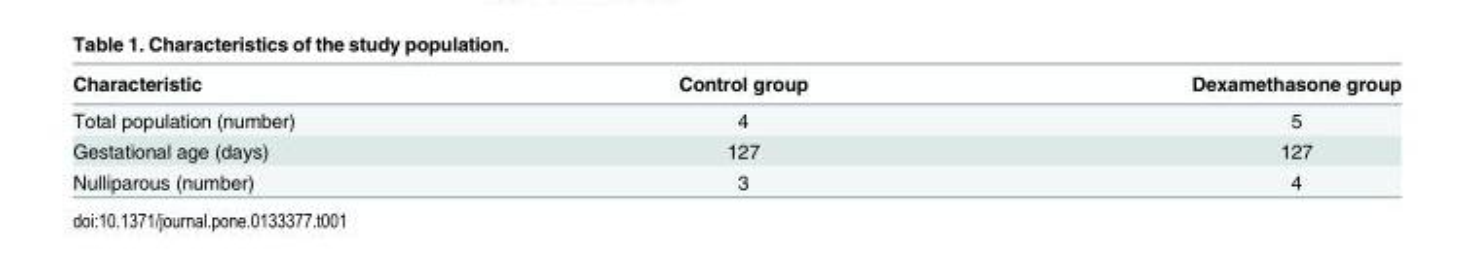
<table><thead><tr><td>Characteristic</td><td>Control group</td><td>Dexamethasone group</td></tr></thead><tbody><tr><td>Total population (number)</td><td>4</td><td>5</td></tr><tr><td>Gestational age (days)</td><td>127</td><td>127</td></tr><tr><td>Nulliparous (number)</td><td>3</td><td>4</td></tr></tbody></table>